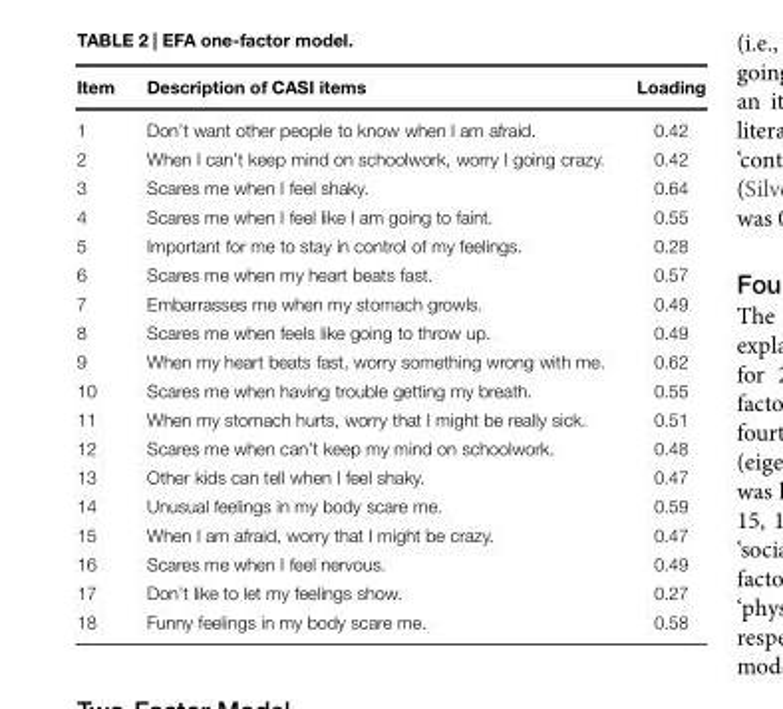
<table><thead><tr><td>Item</td><td>Description of CASI items</td><td>Loading</td></tr></thead><tbody><tr><td>1</td><td>Don’t want other people to know when I am afraid.</td><td>0.42</td></tr><tr><td>2</td><td>When I can’t keep mind on schoolwork, worry I going crazy.</td><td>0.42</td></tr><tr><td>3</td><td>Scares me when I feel shaky.</td><td>0.64</td></tr><tr><td>4</td><td>Scares me when I feel like I am going to faint.</td><td>0.55</td></tr><tr><td>5</td><td>Important for me to stay in control of my feelings.</td><td>0.28</td></tr><tr><td>6</td><td>Scares me when my heart beats fast.</td><td>0.57</td></tr><tr><td>7</td><td>Embarrasses me when my stomach growls.</td><td>0.49</td></tr><tr><td>8</td><td>Scares me when feels like going to throw up.</td><td>0.49</td></tr><tr><td>9</td><td>When my heart beats fast, worry something wrong with me.</td><td>0.62</td></tr><tr><td>10</td><td>Scares me when having trouble getting my breath.</td><td>0.55</td></tr><tr><td>11</td><td>When my stomach hurts, worry that I might be really sick.</td><td>0.51</td></tr><tr><td>12</td><td>Scares me when can’t keep my mind on schoolwork.</td><td>0.48</td></tr><tr><td>13</td><td>Other kids can tell when I feel shaky.</td><td>0.47</td></tr><tr><td>14</td><td>Unusual feelings in my body scare me.</td><td>0.59</td></tr><tr><td>15</td><td>When I am afraid, worry that I might be crazy.</td><td>0.47</td></tr><tr><td>16</td><td>Scares me when I feel nervous.</td><td>0.49</td></tr><tr><td>17</td><td>Don’t like to let my feelings show.</td><td>0.27</td></tr><tr><td>18</td><td>Funny feelings in my body scare me.</td><td>0.58</td></tr></tbody></table>